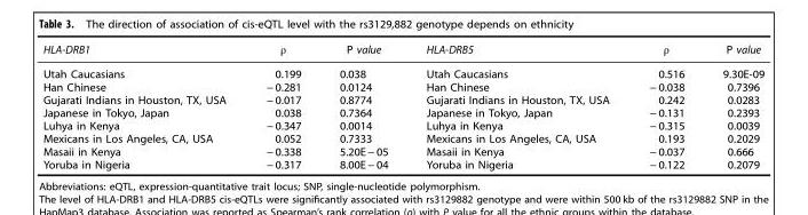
<table><thead><tr><td>HLA-DRB1</td><td>ρ</td><td>P value</td><td>HLA-DRB5</td><td>ρ</td><td>P value</td></tr></thead><tbody><tr><td>Utah Caucasians</td><td>0.199</td><td>0.038</td><td>Utah Caucasians</td><td>0.516</td><td>9.30E-09</td></tr><tr><td>Han Chinese</td><td>− 0.281</td><td>0.0124</td><td>Han Chinese</td><td>− 0.038</td><td>0.7396</td></tr><tr><td>Gujarati Indians in Houston, TX, USA</td><td>− 0.017</td><td>0.8774</td><td>Gujarati Indians in Houston, TX, USA</td><td>0.242</td><td>0.0283</td></tr><tr><td>Japanese in Tokyo, Japan</td><td>0.038</td><td>0.7364</td><td>Japanese in Tokyo, Japan</td><td>− 0.131</td><td>0.2393</td></tr><tr><td>Luhya in Kenya</td><td>− 0.347</td><td>0.0014</td><td>Luhya in Kenya</td><td>− 0.315</td><td>0.0039</td></tr><tr><td>Mexicans in Los Angeles, CA, USA</td><td>0.052</td><td>0.7333</td><td>Mexicans in Los Angeles, CA, USA</td><td>0.193</td><td>0.2029</td></tr><tr><td>Masaii in Kenya</td><td>− 0.338</td><td>5.20E − 05</td><td>Masaii in Kenya</td><td>− 0.037</td><td>0.666</td></tr><tr><td>Yoruba in Nigeria</td><td>− 0.317</td><td>8.00E − 04</td><td>Yoruba in Nigeria</td><td>− 0.122</td><td>0.2079</td></tr></tbody></table>